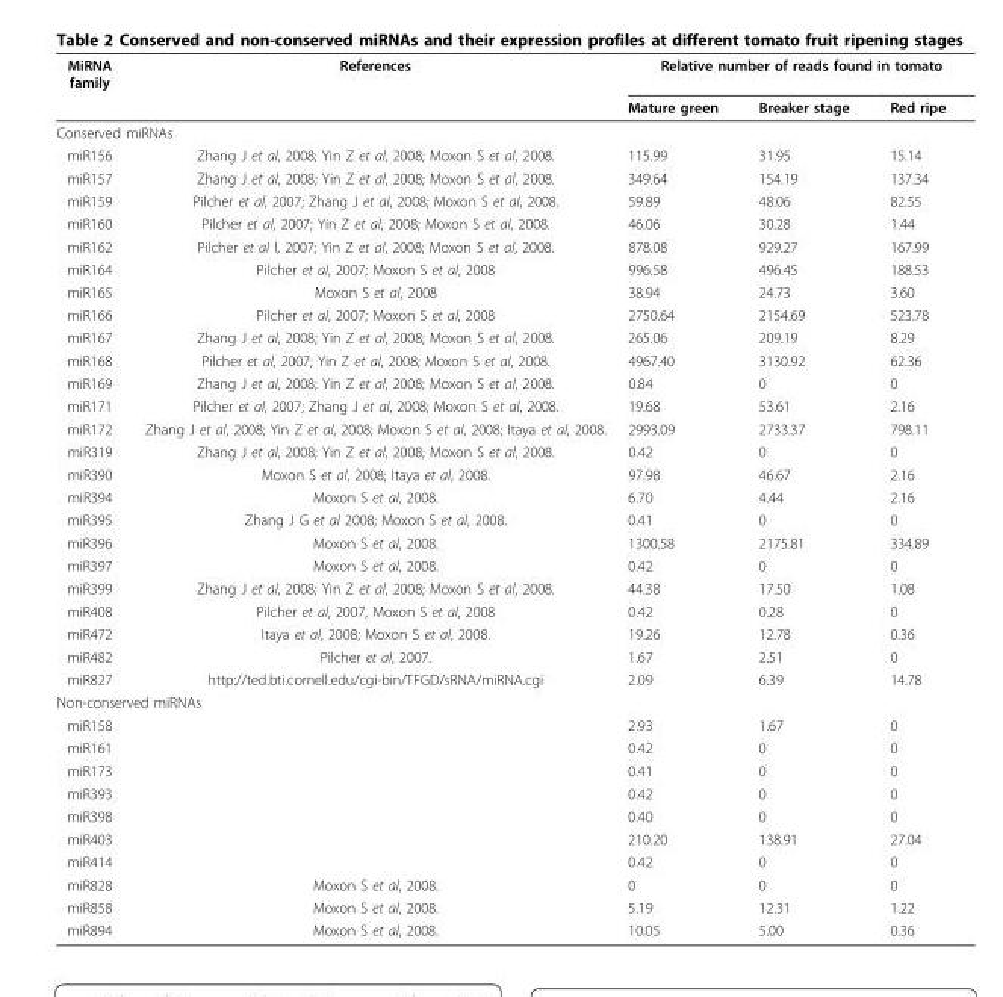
<table><thead><tr><td rowspan="2">MiRNA family</td><td rowspan="2">References</td><td colspan="3">Relative number of reads found in tomato</td></tr><tr><td>Mature green</td><td>Breaker stage</td><td>Red ripe</td></tr></thead><tbody><tr><td colspan="5">Conserved miRNAs</td></tr><tr><td>miR156</td><td>Zhang J et al, 2008; Yin Z et al, 2008; Moxon S et al, 2008.</td><td>115.99</td><td>31.95</td><td>15.14</td></tr><tr><td>miR157</td><td>Zhang J et al, 2008; Yin Z et al, 2008; Moxon S et al, 2008.</td><td>349.64</td><td>154.19</td><td>137.34</td></tr><tr><td>miR159</td><td>Pilcher et al, 2007; Zhang J et al, 2008; Moxon S et al, 2008.</td><td>59.89</td><td>48.06</td><td>82.55</td></tr><tr><td>miR160</td><td>Pilcher et al, 2007; Yin Z et al, 2008; Moxon S et al, 2008.</td><td>46.06</td><td>30.28</td><td>1.44</td></tr><tr><td>miR162</td><td>Pilcher et al l, 2007; Yin Z et al, 2008; Moxon S et al, 2008.</td><td>878.08</td><td>929.27</td><td>167.99</td></tr><tr><td>miR164</td><td>Pilcher et al, 2007; Moxon S et al, 2008</td><td>996.58</td><td>496.45</td><td>188.53</td></tr><tr><td>miR165</td><td>Moxon S et al, 2008</td><td>38.94</td><td>24.73</td><td>3.60</td></tr><tr><td>miR166</td><td>Pilcher et al, 2007; Moxon S et al, 2008</td><td>2750.64</td><td>2154.69</td><td>523.78</td></tr><tr><td>miR167</td><td>Zhang J et al, 2008; Yin Z et al, 2008; Moxon S et al, 2008.</td><td>265.06</td><td>209.19</td><td>8.29</td></tr><tr><td>miR168</td><td>Pilcher et al, 2007; Yin Z et al, 2008; Moxon S et al, 2008.</td><td>4967.40</td><td>3130.92</td><td>62.36</td></tr><tr><td>miR169</td><td>Zhang J et al, 2008; Yin Z et al, 2008; Moxon S et al, 2008.</td><td>0.84</td><td>0</td><td>0</td></tr><tr><td>miR171</td><td>Pilcher et al, 2007; Zhang J et al, 2008; Moxon S et al, 2008.</td><td>19.68</td><td>53.61</td><td>2.16</td></tr><tr><td>miR172</td><td>Zhang J et al, 2008; Yin Z et al, 2008; Moxon S et al, 2008; Itaya et al, 2008.</td><td>2993.09</td><td>2733.37</td><td>798.11</td></tr><tr><td>miR319</td><td>Zhang J et al, 2008; Yin Z et al, 2008; Moxon S et al, 2008.</td><td>0.42</td><td>0</td><td>0</td></tr><tr><td>miR390</td><td>Moxon S et al, 2008; Itaya et al, 2008.</td><td>97.98</td><td>46.67</td><td>2.16</td></tr><tr><td>miR394</td><td>Moxon S et al, 2008.</td><td>6.70</td><td>4.44</td><td>2.16</td></tr><tr><td>miR395</td><td>Zhang J G et al 2008; Moxon S et al, 2008.</td><td>0.41</td><td>0</td><td>0</td></tr><tr><td>miR396</td><td>Moxon S et al, 2008.</td><td>1300.58</td><td>2175.81</td><td>334.89</td></tr><tr><td>miR397</td><td>Moxon S et al, 2008.</td><td>0.42</td><td>0</td><td>0</td></tr><tr><td>miR399</td><td>Zhang J et al, 2008; Yin Z et al, 2008; Moxon S et al, 2008.</td><td>44.38</td><td>17.50</td><td>1.08</td></tr><tr><td>miR408</td><td>Pilcher et al, 2007, Moxon S et al, 2008</td><td>0.42</td><td>0.28</td><td>0</td></tr><tr><td>miR472</td><td>Itaya et al, 2008; Moxon S et al, 2008.</td><td>19.26</td><td>12.78</td><td>0.36</td></tr><tr><td>miR482</td><td>Pilcher et al, 2007.</td><td>1.67</td><td>2.51</td><td>0</td></tr><tr><td>miR827</td><td>http://ted.bti.cornell.edu/cgi-bin/TFGD/sRNA/miRNA.cgi</td><td>2.09</td><td>6.39</td><td>14.78</td></tr><tr><td colspan="5">Non-conserved miRNAs</td></tr><tr><td>miR158</td><td></td><td>2.93</td><td>1.67</td><td>0</td></tr><tr><td>miR161</td><td></td><td>0.42</td><td>0</td><td>0</td></tr><tr><td>miR173</td><td></td><td>0.41</td><td>0</td><td>0</td></tr><tr><td>miR393</td><td></td><td>0.42</td><td>0</td><td>0</td></tr><tr><td>miR398</td><td></td><td>0.40</td><td>0</td><td>0</td></tr><tr><td>miR403</td><td></td><td>210.20</td><td>138.91</td><td>27.04</td></tr><tr><td>miR414</td><td></td><td>0.42</td><td>0</td><td>0</td></tr><tr><td>miR828</td><td>Moxon S et al, 2008.</td><td>0</td><td>0</td><td>0</td></tr><tr><td>miR858</td><td>Moxon S et al, 2008.</td><td>5.19</td><td>12.31</td><td>1.22</td></tr><tr><td>miR894</td><td>Moxon S et al, 2008.</td><td>10.05</td><td>5.00</td><td>0.36</td></tr></tbody></table>